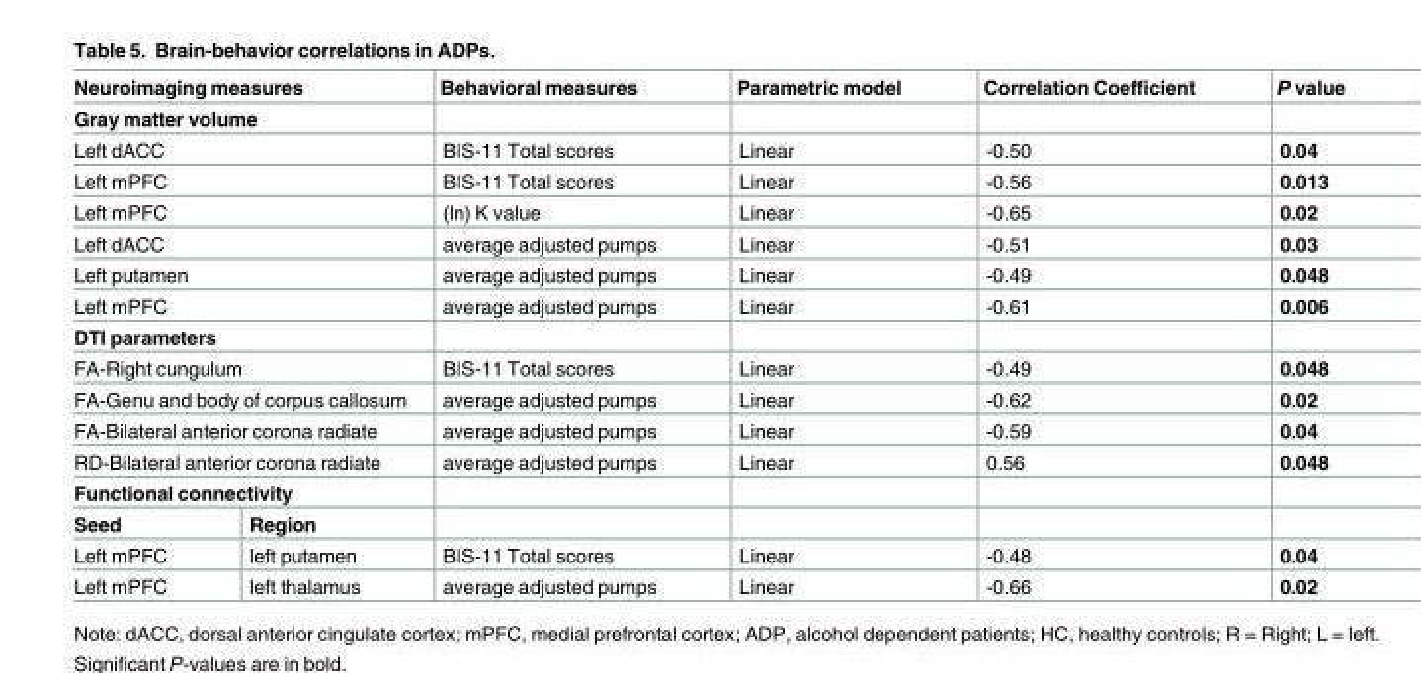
<table><thead><tr><td colspan="2">Neuroimaging measures</td><td>Behavioral measures</td><td>Parametric model</td><td>Correlation Coefficient</td><td>P value</td></tr></thead><tbody><tr><td colspan="6">Gray matter volume</td></tr><tr><td colspan="2">Left dACC</td><td>BIS-11 Total scores</td><td>Linear</td><td>-0.50</td><td>0.04</td></tr><tr><td colspan="2">Left mPFC</td><td>BIS-11 Total scores</td><td>Linear</td><td>-0.56</td><td>0.013</td></tr><tr><td colspan="2">Left mPFC</td><td>(ln) K value</td><td>Linear</td><td>-0.65</td><td>0.02</td></tr><tr><td colspan="2">Left dACC</td><td>average adjusted pumps</td><td>Linear</td><td>-0.51</td><td>0.03</td></tr><tr><td colspan="2">Left putamen</td><td>average adjusted pumps</td><td>Linear</td><td>-0.49</td><td>0.048</td></tr><tr><td colspan="2">Left mPFC</td><td>average adjusted pumps</td><td>Linear</td><td>-0.61</td><td>0.006</td></tr><tr><td colspan="6">DTI parameters</td></tr><tr><td colspan="2">FA-Right cungulum</td><td>BIS-11 Total scores</td><td>Linear</td><td>-0.49</td><td>0.048</td></tr><tr><td colspan="2">FA-Genu and body of corpus callosum</td><td>average adjusted pumps</td><td>Linear</td><td>-0.62</td><td>0.02</td></tr><tr><td colspan="2">FA-Bilateral anterior corona radiate</td><td>average adjusted pumps</td><td>Linear</td><td>-0.59</td><td>0.04</td></tr><tr><td colspan="2">RD-Bilateral anterior corona radiate</td><td>average adjusted pumps</td><td>Linear</td><td>0.56</td><td>0.048</td></tr><tr><td colspan="6">Functional connectivity</td></tr><tr><td>Seed</td><td>Region</td><td></td><td></td><td></td><td></td></tr><tr><td>Left mPFC</td><td>left putamen</td><td>BIS-11 Total scores</td><td>Linear</td><td>-0.48</td><td>0.04</td></tr><tr><td>Left mPFC</td><td>left thalamus</td><td>average adjusted pumps</td><td>Linear</td><td>-0.66</td><td>0.02</td></tr></tbody></table>